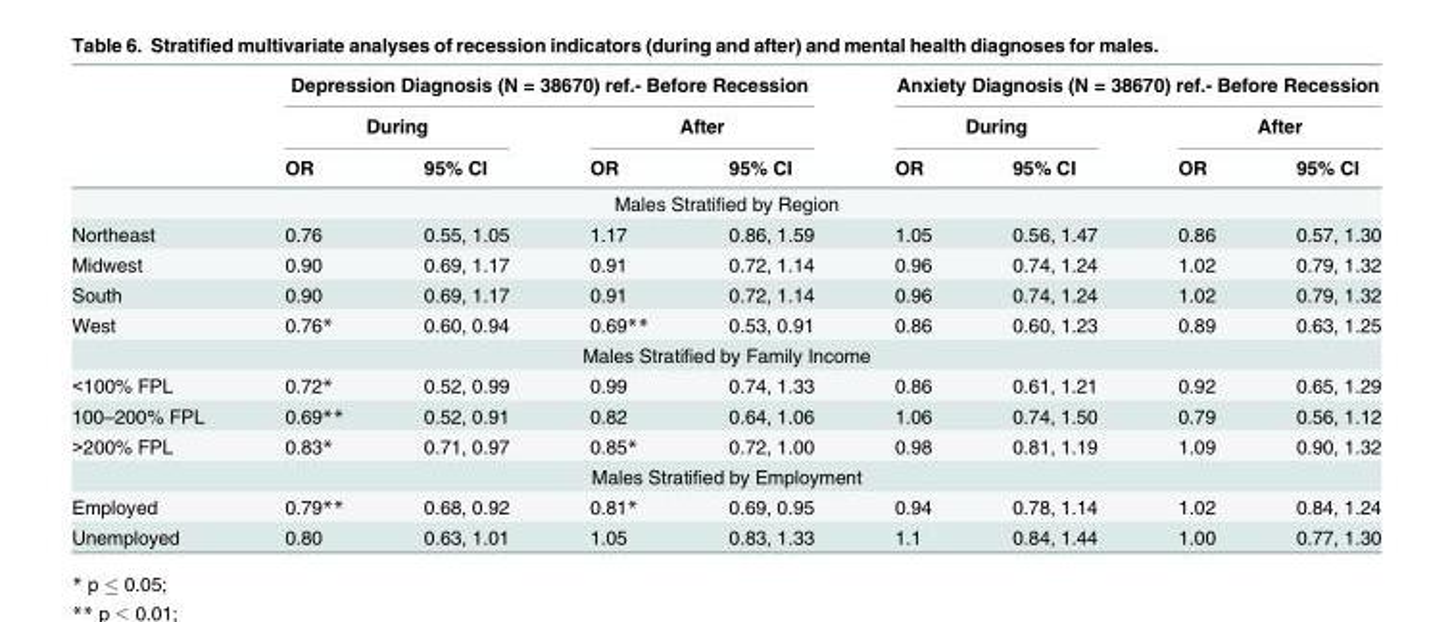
<table><thead><tr><td rowspan="3"></td><td colspan="4">Depression Diagnosis (N = 38670) ref.- Before Recession</td><td colspan="4">Anxiety Diagnosis (N = 38670) ref.- Before Recession</td></tr><tr><td colspan="2">During</td><td colspan="2">After</td><td colspan="2">During</td><td colspan="2">After</td></tr><tr><td>OR</td><td>95% CI</td><td>OR</td><td>95% CI</td><td>OR</td><td>95% CI</td><td>OR</td><td>95% CI</td></tr></thead><tbody><tr><td colspan="9">Males Stratified by Region</td></tr><tr><td>Northeast</td><td>0.76</td><td>0.55, 1.05</td><td>1.17</td><td>0.86, 1.59</td><td>1.05</td><td>0.56, 1.47</td><td>0.86</td><td>0.57, 1.30</td></tr><tr><td>Midwest</td><td>0.90</td><td>0.69, 1.17</td><td>0.91</td><td>0.72, 1.14</td><td>0.96</td><td>0.74, 1.24</td><td>1.02</td><td>0.79, 1.32</td></tr><tr><td>South</td><td>0.90</td><td>0.69, 1.17</td><td>0.91</td><td>0.72, 1.14</td><td>0.96</td><td>0.74, 1.24</td><td>1.02</td><td>0.79, 1.32</td></tr><tr><td>West</td><td>0.76*</td><td>0.60, 0.94</td><td>0.69**</td><td>0.53, 0.91</td><td>0.86</td><td>0.60, 1.23</td><td>0.89</td><td>0.63, 1.25</td></tr><tr><td colspan="9">Males Stratified by Family Income</td></tr><tr><td>&lt;100% FPL</td><td>0.72*</td><td>0.52, 0.99</td><td>0.99</td><td>0.74, 1.33</td><td>0.86</td><td>0.61, 1.21</td><td>0.92</td><td>0.65, 1.29</td></tr><tr><td>100–200% FPL</td><td>0.69**</td><td>0.52, 0.91</td><td>0.82</td><td>0.64, 1.06</td><td>1.06</td><td>0.74, 1.50</td><td>0.79</td><td>0.56, 1.12</td></tr><tr><td>&gt;200% FPL</td><td>0.83*</td><td>0.71, 0.97</td><td>0.85*</td><td>0.72, 1.00</td><td>0.98</td><td>0.81, 1.19</td><td>1.09</td><td>0.90, 1.32</td></tr><tr><td colspan="9">Males Stratified by Employment</td></tr><tr><td>Employed</td><td>0.79**</td><td>0.68, 0.92</td><td>0.81*</td><td>0.69, 0.95</td><td>0.94</td><td>0.78, 1.14</td><td>1.02</td><td>0.84, 1.24</td></tr><tr><td>Unemployed</td><td>0.80</td><td>0.63, 1.01</td><td>1.05</td><td>0.83, 1.33</td><td>1.1</td><td>0.84, 1.44</td><td>1.00</td><td>0.77, 1.30</td></tr></tbody></table>